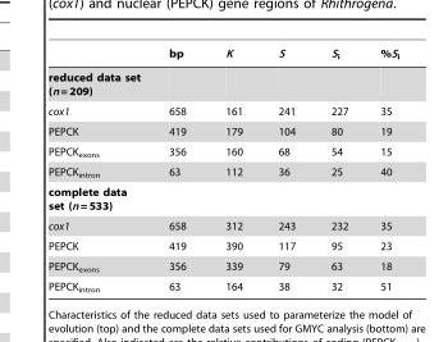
<table><thead><tr><td></td><td>bp</td><td>K</td><td>S</td><td>S<sub>i</sub></td><td>%S<sub>i</sub></td></tr></thead><tbody><tr><td colspan="6">reduced data set (n = 209)</td></tr><tr><td>cox1</td><td>658</td><td>161</td><td>241</td><td>227</td><td>35</td></tr><tr><td>PEPCK</td><td>419</td><td>179</td><td>104</td><td>80</td><td>19</td></tr><tr><td>PEPCK<sub>exons</sub></td><td>356</td><td>160</td><td>68</td><td>54</td><td>15</td></tr><tr><td>PEPCK<sub>intron</sub></td><td>63</td><td>112</td><td>36</td><td>25</td><td>40</td></tr><tr><td colspan="6">complete data set (n = 533)</td></tr><tr><td>cox1</td><td>658</td><td>312</td><td>243</td><td>232</td><td>35</td></tr><tr><td>PEPCK</td><td>419</td><td>390</td><td>117</td><td>95</td><td>23</td></tr><tr><td>PEPCK<sub>exons</sub></td><td>356</td><td>339</td><td>79</td><td>63</td><td>18</td></tr><tr><td>PEPCK<sub>intron</sub></td><td>63</td><td>164</td><td>38</td><td>32</td><td>51</td></tr></tbody></table>